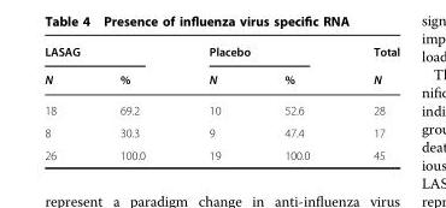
<table><thead><tr><td colspan="2">LASAG</td><td colspan="2">Placebo</td><td rowspan="2">Total N</td></tr><tr><td>N</td><td>%</td><td>N</td><td>%</td></tr></thead><tbody><tr><td>18</td><td>69.2</td><td>10</td><td>52.6</td><td>28</td></tr><tr><td>8</td><td>30.3</td><td>9</td><td>47.4</td><td>17</td></tr><tr><td>26</td><td>100.0</td><td>19</td><td>100.0</td><td>45</td></tr></tbody></table>